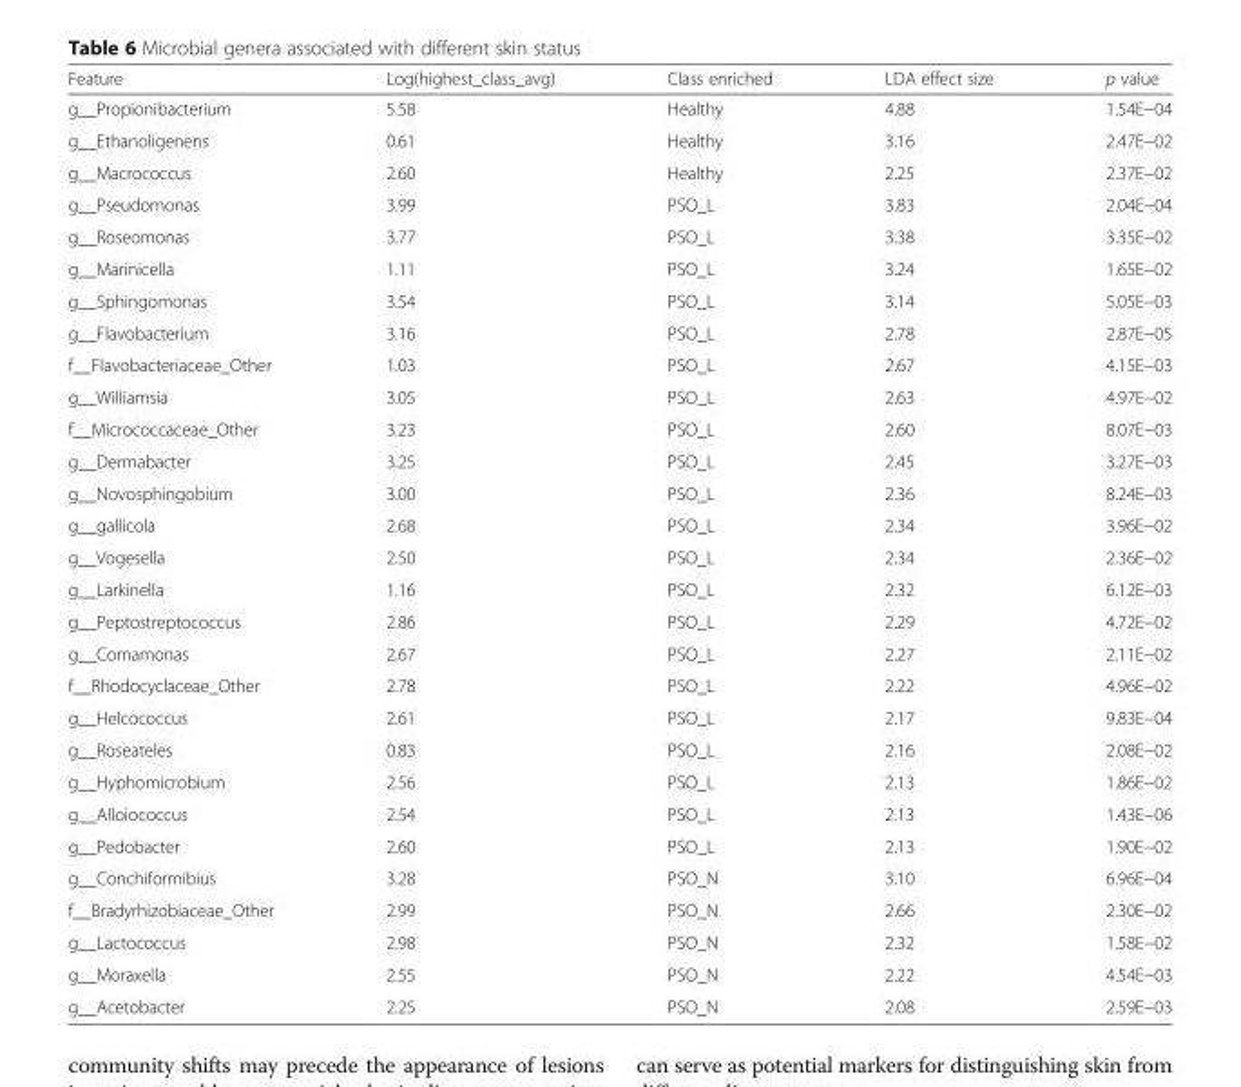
<table><thead><tr><td>Feature</td><td>Log(highest_class_avg)</td><td>Class enriched</td><td>LDA effect size</td><td>p value</td></tr></thead><tbody><tr><td>g__Propionibacterium</td><td>5.58</td><td>Healthy</td><td>4.88</td><td>1.54E−04</td></tr><tr><td>g__Ethanoligenens</td><td>0.61</td><td>Healthy</td><td>3.16</td><td>2.47E−02</td></tr><tr><td>g__Macrococcus</td><td>2.60</td><td>Healthy</td><td>2.25</td><td>2.37E−02</td></tr><tr><td>g__Pseudomonas</td><td>3.99</td><td>PSO_L</td><td>3.83</td><td>2.04E−04</td></tr><tr><td>g__Roseomonas</td><td>3.77</td><td>PSO_L</td><td>3.38</td><td>3.35E−02</td></tr><tr><td>g__Marinicella</td><td>1.11</td><td>PSO_L</td><td>3.24</td><td>1.65E−02</td></tr><tr><td>g__Sphingomonas</td><td>3.54</td><td>PSO_L</td><td>3.14</td><td>5.05E−03</td></tr><tr><td>g__Flavobacterium</td><td>3.16</td><td>PSO_L</td><td>2.78</td><td>2.87E−05</td></tr><tr><td>f__Flavobacteriaceae_Other</td><td>1.03</td><td>PSO_L</td><td>2.67</td><td>4.15E−03</td></tr><tr><td>g__Williamsia</td><td>3.05</td><td>PSO_L</td><td>2.63</td><td>4.97E−02</td></tr><tr><td>f__Micrococcaceae_Other</td><td>3.23</td><td>PSO_L</td><td>2.60</td><td>8.07E−03</td></tr><tr><td>g__Dermabacter</td><td>3.25</td><td>PSO_L</td><td>2.45</td><td>3.27E−03</td></tr><tr><td>g__Novosphingobium</td><td>3.00</td><td>PSO_L</td><td>2.36</td><td>8.24E−03</td></tr><tr><td>g__gallicola</td><td>2.68</td><td>PSO_L</td><td>2.34</td><td>3.96E−02</td></tr><tr><td>g__Vogesella</td><td>2.50</td><td>PSO_L</td><td>2.34</td><td>2.36E−02</td></tr><tr><td>g__Larkinella</td><td>1.16</td><td>PSO_L</td><td>2.32</td><td>6.12E−03</td></tr><tr><td>g__Peptostreptococcus</td><td>2.86</td><td>PSO_L</td><td>2.29</td><td>4.72E−02</td></tr><tr><td>g__Comamonas</td><td>2.67</td><td>PSO_L</td><td>2.27</td><td>2.11E−02</td></tr><tr><td>f__Rhodocyclaceae_Other</td><td>2.78</td><td>PSO_L</td><td>2.22</td><td>4.96E−02</td></tr><tr><td>g__Helcococcus</td><td>2.61</td><td>PSO_L</td><td>2.17</td><td>9.83E−04</td></tr><tr><td>g__Roseateles</td><td>0.83</td><td>PSO_L</td><td>2.16</td><td>2.08E−02</td></tr><tr><td>g__Hyphomicrobium</td><td>2.56</td><td>PSO_L</td><td>2.13</td><td>1.86E−02</td></tr><tr><td>g__Alloiococcus</td><td>2.54</td><td>PSO_L</td><td>2.13</td><td>1.43E−06</td></tr><tr><td>g__Pedobacter</td><td>2.60</td><td>PSO_L</td><td>2.13</td><td>1.90E−02</td></tr><tr><td>g__Conchiformibius</td><td>3.28</td><td>PSO_N</td><td>3.10</td><td>6.96E−04</td></tr><tr><td>f__Bradyrhizobiaceae_Other</td><td>2.99</td><td>PSO_N</td><td>2.66</td><td>2.30E−02</td></tr><tr><td>g__Lactococcus</td><td>2.98</td><td>PSO_N</td><td>2.32</td><td>1.58E−02</td></tr><tr><td>g__Moraxella</td><td>2.55</td><td>PSO_N</td><td>2.22</td><td>4.54E−03</td></tr><tr><td>g__Acetobacter</td><td>2.25</td><td>PSO_N</td><td>2.08</td><td>2.59E−03</td></tr></tbody></table>